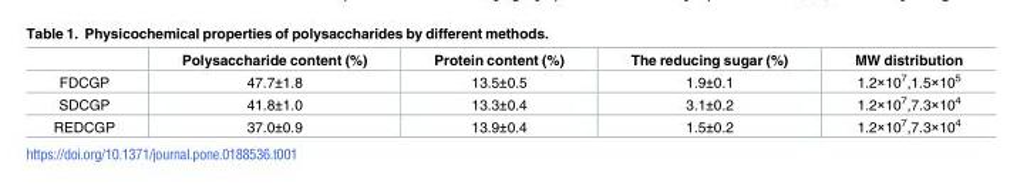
<table><thead><tr><td></td><td>Polysaccharide content (%)</td><td>Protein content (%)</td><td>The reducing sugar (%)</td><td>MW distribution</td></tr></thead><tbody><tr><td>FDCGP</td><td>47.7±1.8</td><td>13.5±0.5</td><td>1.9±0.1</td><td>1.2×10<sup>7</sup>,1.5×10<sup>5</sup></td></tr><tr><td>SDCGP</td><td>41.8±1.0</td><td>13.3±0.4</td><td>3.1±0.2</td><td>1.2×10<sup>7</sup>,7.3×10<sup>4</sup></td></tr><tr><td>REDCGP</td><td>37.0±0.9</td><td>13.9±0.4</td><td>1.5±0.2</td><td>1.2×10<sup>7</sup>,7.3×10<sup>4</sup></td></tr></tbody></table>